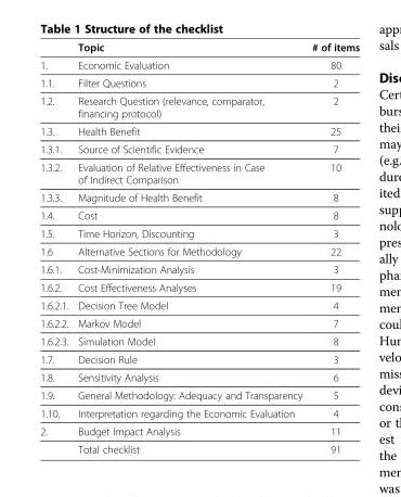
<table><thead><tr><td></td><td>Topic</td><td># of items</td></tr></thead><tbody><tr><td>1.</td><td>Economic Evaluation</td><td>80</td></tr><tr><td>1.1.</td><td>Filter Questions</td><td>2</td></tr><tr><td>1.2.</td><td>Research Question (relevance, comparator, financing protocol)</td><td>2</td></tr><tr><td>1.3.</td><td>Health Benefit</td><td>25</td></tr><tr><td>1.3.1.</td><td>Source of Scientific Evidence</td><td>7</td></tr><tr><td>1.3.2.</td><td>Evaluation of Relative Effectiveness in Case of Indirect Comparison</td><td>10</td></tr><tr><td>1.3.3.</td><td>Magnitude of Health Benefit</td><td>8</td></tr><tr><td>1.4.</td><td>Cost</td><td>8</td></tr><tr><td>1.5.</td><td>Time Horizon, Discounting</td><td>3</td></tr><tr><td>1.6</td><td>Alternative Sections for Methodology</td><td>22</td></tr><tr><td>1.6.1.</td><td>Cost-Minimization Analysis</td><td>3</td></tr><tr><td>1.6.2.</td><td>Cost Effectiveness Analyses</td><td>19</td></tr><tr><td>1.6.2.1.</td><td>Decision Tree Model</td><td>4</td></tr><tr><td>1.6.2.2.</td><td>Markov Model</td><td>7</td></tr><tr><td>1.6.2.3.</td><td>Simulation Model</td><td>8</td></tr><tr><td>1.7.</td><td>Decision Rule</td><td>3</td></tr><tr><td>1.8.</td><td>Sensitivity Analysis</td><td>6</td></tr><tr><td>1.9.</td><td>General Methodology: Adequacy and Transparency</td><td>5</td></tr><tr><td>1.10.</td><td>Interpretation regarding the Economic Evaluation</td><td>4</td></tr><tr><td rowspan="2">2.</td><td>Budget Impact Analysis</td><td>11</td></tr><tr><td>Total checklist</td><td>91</td></tr></tbody></table>